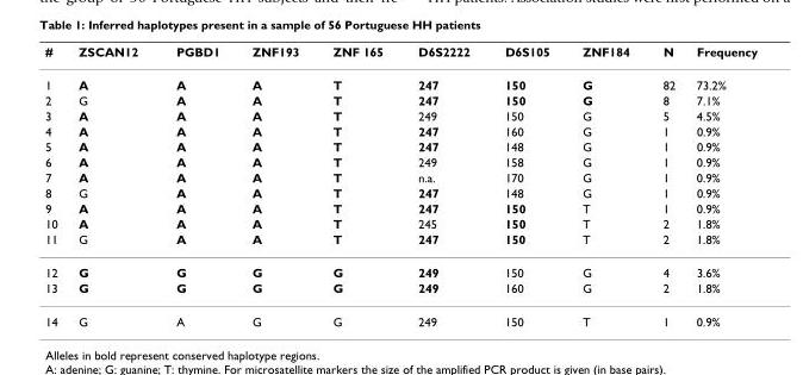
<table><thead><tr><td>#</td><td>ZSCAN12</td><td>PGBD1</td><td>ZNF193</td><td>ZNF 165</td><td>D6S2222</td><td>D6S105</td><td>ZNF184</td><td>N</td><td>Frequency</td></tr></thead><tbody><tr><td>1</td><td>A</td><td>A</td><td>A</td><td>T</td><td>247</td><td>150</td><td>G</td><td>82</td><td>73.2%</td></tr><tr><td>2</td><td>G</td><td>A</td><td>A</td><td>T</td><td>247</td><td>150</td><td>G</td><td>8</td><td>7.1%</td></tr><tr><td>3</td><td>A</td><td>A</td><td>A</td><td>T</td><td>249</td><td>150</td><td>G</td><td>5</td><td>4.5%</td></tr><tr><td>4</td><td>A</td><td>A</td><td>A</td><td>T</td><td>247</td><td>160</td><td>G</td><td>1</td><td>0.9%</td></tr><tr><td>5</td><td>A</td><td>A</td><td>A</td><td>T</td><td>247</td><td>148</td><td>G</td><td>1</td><td>0.9%</td></tr><tr><td>6</td><td>A</td><td>A</td><td>A</td><td>T</td><td>249</td><td>158</td><td>G</td><td>1</td><td>0.9%</td></tr><tr><td>7</td><td>A</td><td>A</td><td>A</td><td>T</td><td>n.a.</td><td>170</td><td>G</td><td>1</td><td>0.9%</td></tr><tr><td>8</td><td>G</td><td>A</td><td>A</td><td>T</td><td>247</td><td>148</td><td>G</td><td>1</td><td>0.9%</td></tr><tr><td>9</td><td>A</td><td>A</td><td>A</td><td>T</td><td>247</td><td>150</td><td>T</td><td>1</td><td>0.9%</td></tr><tr><td>10</td><td>A</td><td>A</td><td>A</td><td>T</td><td>245</td><td>150</td><td>T</td><td>2</td><td>1.8%</td></tr><tr><td>11</td><td>G</td><td>A</td><td>A</td><td>T</td><td>247</td><td>150</td><td>T</td><td>2</td><td>1.8%</td></tr><tr><td>12</td><td>G</td><td>G</td><td>G</td><td>G</td><td>249</td><td>150</td><td>G</td><td>4</td><td>3.6%</td></tr><tr><td>13</td><td>G</td><td>G</td><td>G</td><td>G</td><td>249</td><td>160</td><td>G</td><td>2</td><td>1.8%</td></tr><tr><td>14</td><td>G</td><td>A</td><td>G</td><td>G</td><td>249</td><td>150</td><td>T</td><td>1</td><td>0.9%</td></tr></tbody></table>